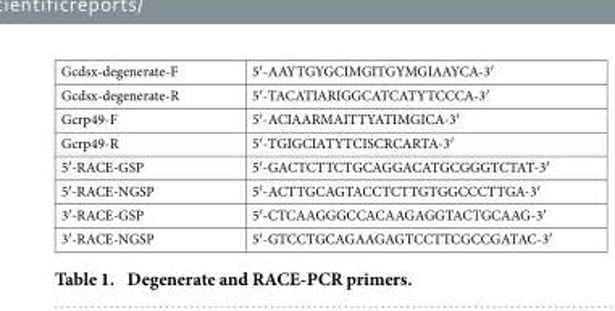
<table><tbody><tr><td>Gcdsx-degenerate-F</td><td>5′ -AAYTGYGCIMGITGYMGIAAYCA-3′</td></tr><tr><td>Gcdsx-degenerate-R</td><td>5′ -TACATIARIGGCATCATYTCCCA-3′</td></tr><tr><td>Gcrp49-F</td><td>5′ -ACIAARMAITTYATIMGICA-3′</td></tr><tr><td>Gcrp49-R</td><td>5′ -TGIGCIATYTCISCRCARTA-3′</td></tr><tr><td>5′ -RACE-GSP</td><td>5′ -GACTCTTCTGCAGGACATGCGGGTCTAT-3′</td></tr><tr><td>5′ -RACE-NGSP</td><td>5′ -ACTTGCAGTACCTCTTGTGGCCCTTGA-3′</td></tr><tr><td>3′ -RACE-GSP</td><td>5′ -CTCAAGGGCCACAAGAGGTACTGCAAG-3′</td></tr><tr><td>3′ -RACE-NGSP</td><td>5′ -GTCCTGCAGAAGAGTCCTTCGCCGATAC-3′</td></tr></tbody></table>